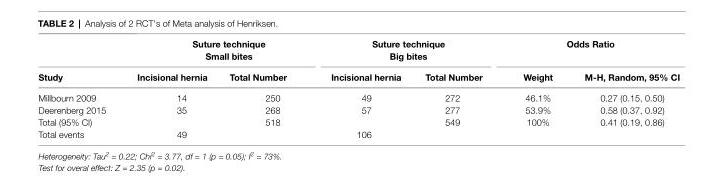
<table><thead><tr><td rowspan="2">study</td><td colspan="2">suture technique small bites</td><td colspan="2">suture technique big bites</td><td colspan="2">odds Ratio</td></tr><tr><td>incisional hernia</td><td>Total number</td><td>incisional hernia</td><td>Total number</td><td>weight</td><td>M-h, Random, 95% Ci</td></tr></thead><tbody><tr><td>Millbourn 2009</td><td>14</td><td>250</td><td>49</td><td>272</td><td>46.1%</td><td>0.27 (0.15, 0.50)</td></tr><tr><td>Deerenberg 2015</td><td>35</td><td>268</td><td>57</td><td>277</td><td>53.9%</td><td>0.58 (0.37, 0.92)</td></tr><tr><td>Total (95% CI)</td><td></td><td>518</td><td></td><td>549</td><td>100%</td><td>0.41 (0.19, 0.86)</td></tr><tr><td>Total events</td><td>49</td><td></td><td>106</td><td></td><td></td><td></td></tr></tbody></table>